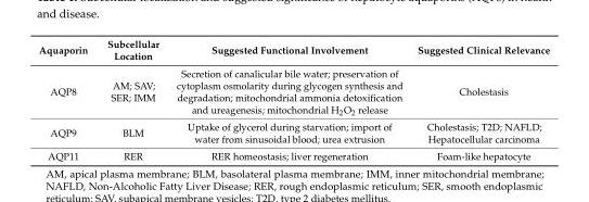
<table><thead><tr><td>Aquaporin</td><td>Subcellular Location</td><td>Suggested Functional Involvement</td><td>Suggested Clinical Relevance</td></tr></thead><tbody><tr><td>AQP8</td><td>AM; SAV; SER; IMM</td><td>Secretion of canalicular bile water; preservation of cytoplasm osmolarity during glycogen synthesis and degradation; mitochondrial ammonia detoxification and ureagenesis; mitochondrial H<sub>2</sub>O<sub>2</sub> release</td><td>Cholestasis</td></tr><tr><td>AQP9</td><td>BLM</td><td>Uptake of glycerol during starvation; import of water from sinusoidal blood; urea extrusion</td><td>Cholestasis; T2D; NAFLD; Hepatocellular carcinoma</td></tr><tr><td>AQP11</td><td>RER</td><td>RER homeostasis; liver regeneration</td><td>Foam-like hepatocyte</td></tr></tbody></table>